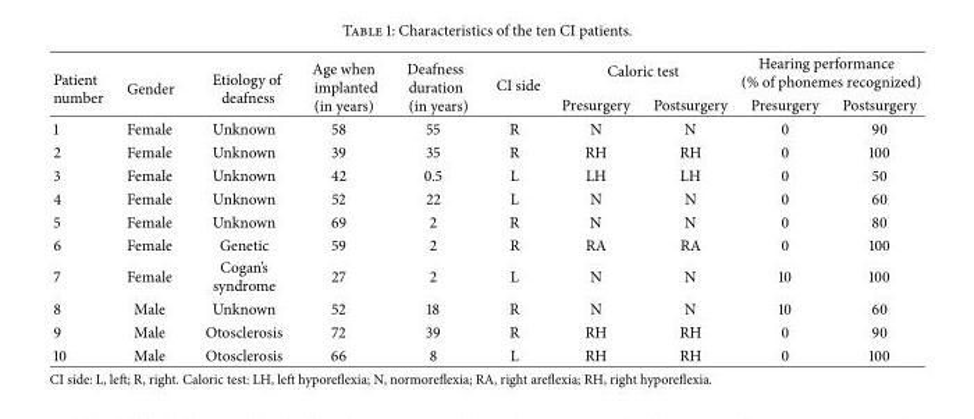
<table><thead><tr><td rowspan="2">Patient number</td><td rowspan="2">Gender</td><td rowspan="2">Etiology of deafness</td><td rowspan="2">Age when implanted (in years)</td><td rowspan="2">Deafness duration (in years)</td><td rowspan="2">CI side</td><td colspan="2">Caloric test</td><td colspan="2">Hearing performance (% of phonemes recognized)</td></tr><tr><td>Presurgery</td><td>Postsurgery</td><td>Presurgery</td><td>Postsurgery</td></tr></thead><tbody><tr><td>1</td><td>Female</td><td>Unknown</td><td>58</td><td>55</td><td>R</td><td>N</td><td>N</td><td>0</td><td>90</td></tr><tr><td>2</td><td>Female</td><td>Unknown</td><td>39</td><td>35</td><td>R</td><td>RH</td><td>RH</td><td>0</td><td>100</td></tr><tr><td>3</td><td>Female</td><td>Unknown</td><td>42</td><td>0.5</td><td>L</td><td>LH</td><td>LH</td><td>0</td><td>50</td></tr><tr><td>4</td><td>Female</td><td>Unknown</td><td>52</td><td>22</td><td>L</td><td>N</td><td>N</td><td>0</td><td>60</td></tr><tr><td>5</td><td>Female</td><td>Unknown</td><td>69</td><td>2</td><td>R</td><td>N</td><td>N</td><td>0</td><td>80</td></tr><tr><td>6</td><td>Female</td><td>Genetic</td><td>59</td><td>2</td><td>R</td><td>RA</td><td>RA</td><td>0</td><td>100</td></tr><tr><td>7</td><td>Female</td><td>Cogan’s syndrome</td><td>27</td><td>2</td><td>L</td><td>N</td><td>N</td><td>10</td><td>100</td></tr><tr><td>8</td><td>Male</td><td>Unknown</td><td>52</td><td>18</td><td>R</td><td>N</td><td>N</td><td>10</td><td>60</td></tr><tr><td>9</td><td>Male</td><td>Otosclerosis</td><td>72</td><td>39</td><td>R</td><td>RH</td><td>RH</td><td>0</td><td>90</td></tr><tr><td>10</td><td>Male</td><td>Otosclerosis</td><td>66</td><td>8</td><td>L</td><td>RH</td><td>RH</td><td>0</td><td>100</td></tr></tbody></table>